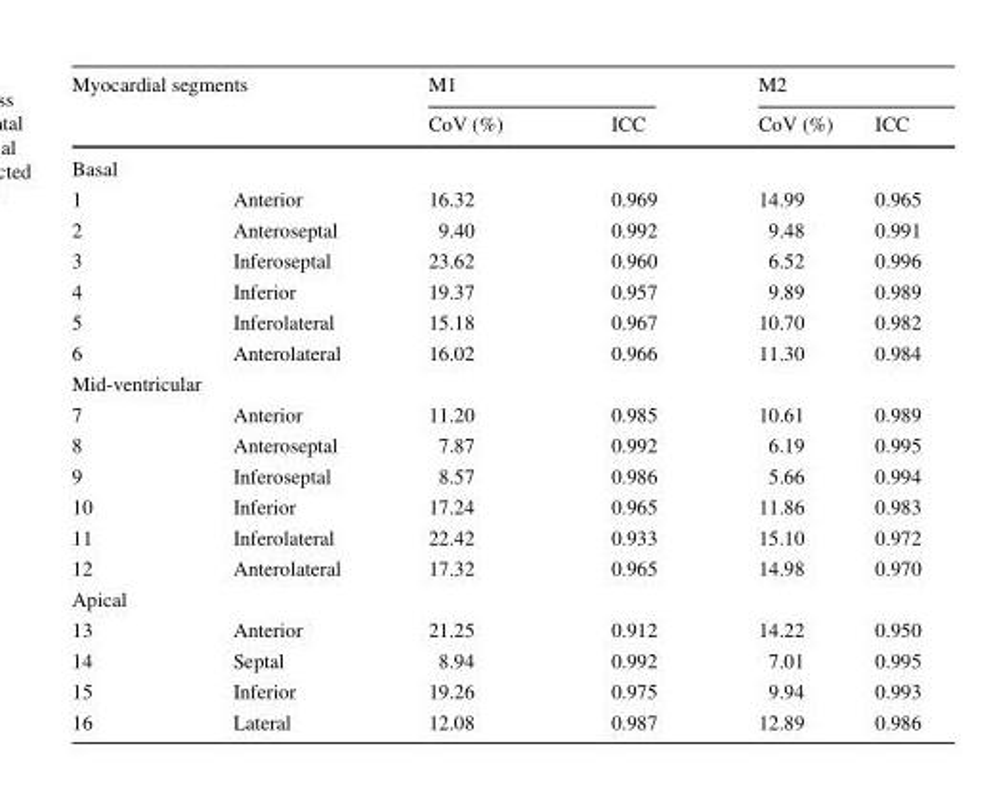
<table><thead><tr><td rowspan="2" colspan="2">Myocardial segments</td><td colspan="2">M1</td><td colspan="2">M2</td></tr><tr><td>CoV (%)</td><td>ICC</td><td>CoV (%)</td><td>ICC</td></tr><tr><td colspan="6">Basal</td></tr><tr><td>1</td><td>Anterior</td><td>16.32</td><td>0.969</td><td>14.99</td><td>0.965</td></tr></thead><tbody><tr><td>2</td><td>Anteroseptal</td><td>9.40</td><td>0.992</td><td>9.48</td><td>0.991</td></tr><tr><td>3</td><td>Inferoseptal</td><td>23.62</td><td>0.960</td><td>6.52</td><td>0.996</td></tr><tr><td>4</td><td>Inferior</td><td>19.37</td><td>0.957</td><td>9.89</td><td>0.989</td></tr><tr><td>5</td><td>Inferolateral</td><td>15.18</td><td>0.967</td><td>10.70</td><td>0.982</td></tr><tr><td>6</td><td>Anterolateral</td><td>16.02</td><td>0.966</td><td>11.30</td><td>0.984</td></tr><tr><td colspan="6">Mid-ventricular</td></tr><tr><td>7</td><td>Anterior</td><td>11.20</td><td>0.985</td><td>10.61</td><td>0.989</td></tr><tr><td>8</td><td>Anteroseptal</td><td>7.87</td><td>0.992</td><td>6.19</td><td>0.995</td></tr><tr><td>9</td><td>Inferoseptal</td><td>8.57</td><td>0.986</td><td>5.66</td><td>0.994</td></tr><tr><td>10</td><td>Inferior</td><td>17.24</td><td>0.965</td><td>11.86</td><td>0.983</td></tr><tr><td>11</td><td>Inferolateral</td><td>22.42</td><td>0.933</td><td>15.10</td><td>0.972</td></tr><tr><td>12</td><td>Anterolateral</td><td>17.32</td><td>0.965</td><td>14.98</td><td>0.970</td></tr><tr><td colspan="6">Apical</td></tr><tr><td>13</td><td>Anterior</td><td>21.25</td><td>0.912</td><td>14.22</td><td>0.950</td></tr><tr><td>14</td><td>Septal</td><td>8.94</td><td>0.992</td><td>7.01</td><td>0.995</td></tr><tr><td>15</td><td>Inferior</td><td>19.26</td><td>0.975</td><td>9.94</td><td>0.993</td></tr><tr><td>16</td><td>Lateral</td><td>12.08</td><td>0.987</td><td>12.89</td><td>0.986</td></tr></tbody></table>